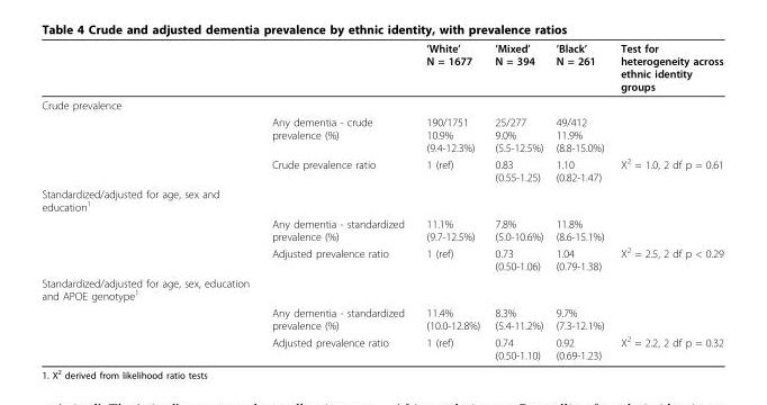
<table><thead><tr><td></td><td></td><td>’White’ N = 1677</td><td>’Mixed’ N = 394</td><td>’Black’ N = 261</td><td>Test for heterogeneity across ethnic identity groups</td></tr></thead><tbody><tr><td colspan="6">Crude prevalence</td></tr><tr><td></td><td>Any dementia - crude prevalence (%)</td><td>190/1751 10.9% (9.4-12.3%)</td><td>25/277 9.0% (5.5-12.5%)</td><td>49/412 11.9% (8.8-15.0%)</td><td></td></tr><tr><td></td><td>Crude prevalence ratio</td><td>1 (ref)</td><td>0.83 (0.55-1.25)</td><td>1.10 (0.82-1.47)</td><td>X<sup>2</sup> = 1.0, 2 df p = 0.61</td></tr><tr><td colspan="6">Standardized/adjusted for age, sex and education<sup>1</sup></td></tr><tr><td></td><td>Any dementia - standardized prevalence (%)</td><td>11.1% (9.7-12.5%)</td><td>7.8% (5.0-10.6%)</td><td>11.8% (8.6-15.1%)</td><td></td></tr><tr><td></td><td>Adjusted prevalence ratio</td><td>1 (ref)</td><td>0.73 (0.50-1.06)</td><td>1.04 (0.79-1.38)</td><td>X<sup>2</sup> = 2.5, 2 df p &lt; 0.29</td></tr><tr><td colspan="6">Standardized/adjusted for age, sex, education and APOE genotype<sup>1</sup></td></tr><tr><td></td><td>Any dementia - standardized prevalence (%)</td><td>11.4% (10.0-12.8%)</td><td>8.3% (5.4-11.2%)</td><td>9.7% (7.3-12.1%)</td><td></td></tr><tr><td></td><td>Adjusted prevalence ratio</td><td>1 (ref)</td><td>0.74 (0.50-1.10)</td><td>0.92 (0.69-1.23)</td><td>X<sup>2</sup> = 2.2, 2 df p = 0.32</td></tr></tbody></table>